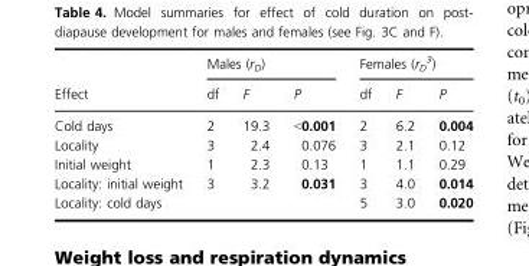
<table><thead><tr><td rowspan="2">Effect</td><td colspan="3">Males (r<sub>D</sub>)</td><td colspan="3">Females (r<sub>D</sub> <sup>3</sup>)</td></tr><tr><td>df</td><td>F</td><td>P</td><td>df</td><td>F</td><td>P</td></tr></thead><tbody><tr><td>Cold days</td><td>2</td><td>19.3</td><td>&lt;0.001</td><td>2</td><td>6.2</td><td>0.004</td></tr><tr><td>Locality</td><td>3</td><td>2.4</td><td>0.076</td><td>3</td><td>2.1</td><td>0.12</td></tr><tr><td>Initial weight</td><td>1</td><td>2.3</td><td>0.13</td><td>1</td><td>1.1</td><td>0.29</td></tr><tr><td>Locality: initial weight</td><td>3</td><td>3.2</td><td>0.031</td><td>3</td><td>4.0</td><td>0.014</td></tr><tr><td>Locality: cold days</td><td></td><td></td><td></td><td>5</td><td>3.0</td><td>0.020</td></tr></tbody></table>